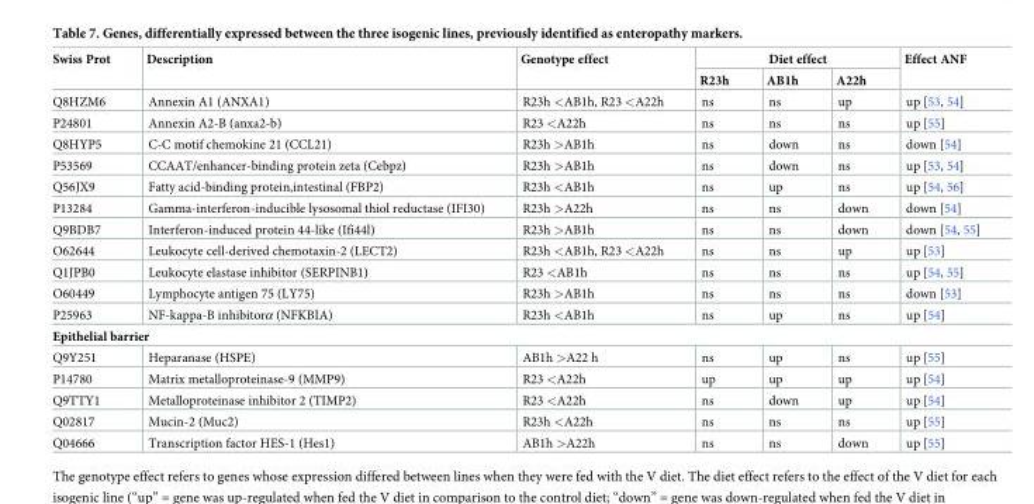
<table><thead><tr><td rowspan="2">Swiss Prot</td><td rowspan="2">Description</td><td rowspan="2">Genotype effect</td><td colspan="3">Diet effect</td><td rowspan="2">Effect ANF</td></tr><tr><td>R23h</td><td>AB1h</td><td>A22h</td></tr></thead><tbody><tr><td>Q8HZM6</td><td>Annexin A1 (ANXA1)</td><td>R23h &lt;AB1h, R23 &lt;A22h</td><td>ns</td><td>ns</td><td>up</td><td>up [53, 54]</td></tr><tr><td>P24801</td><td>Annexin A2-B (anxa2-b)</td><td>R23 &lt;A22h</td><td>ns</td><td>ns</td><td>ns</td><td>up [55]</td></tr><tr><td>Q8HYP5</td><td>C-C motif chemokine 21 (CCL21)</td><td>R23h &gt;AB1h</td><td>ns</td><td>down</td><td>ns</td><td>down [54]</td></tr><tr><td>P53569</td><td>CCAAT/enhancer-binding protein zeta (Cebpz)</td><td>R23h &gt;AB1h</td><td>ns</td><td>down</td><td>ns</td><td>up [53, 54]</td></tr><tr><td>Q56JX9</td><td>Fatty acid-binding protein,intestinal (FBP2)</td><td>R23h &lt;AB1h</td><td>ns</td><td>up</td><td>ns</td><td>up [54, 56]</td></tr><tr><td>P13284</td><td>Gamma-interferon-inducible lysosomal thiol reductase (IFI30)</td><td>R23h &gt;A22h</td><td>ns</td><td>ns</td><td>down</td><td>down [54]</td></tr><tr><td>Q9BDB7</td><td>Interferon-induced protein 44-like (Ifi44l)</td><td>R23h &gt;AB1h</td><td>ns</td><td>ns</td><td>down</td><td>down [54, 55]</td></tr><tr><td>O62644</td><td>Leukocyte cell-derived chemotaxin-2 (LECT2)</td><td>R23h &lt;AB1h, R23 &lt;A22h</td><td>ns</td><td>ns</td><td>up</td><td>up [53]</td></tr><tr><td>Q1JPB0</td><td>Leukocyte elastase inhibitor (SERPINB1)</td><td>R23 &lt;AB1h</td><td>ns</td><td>ns</td><td>ns</td><td>up [54, 55]</td></tr><tr><td>O60449</td><td>Lymphocyte antigen 75 (LY75)</td><td>R23h &gt;AB1h</td><td>ns</td><td>ns</td><td>ns</td><td>down [53]</td></tr><tr><td>P25963</td><td>NF-kappa-B inhibitorα (NFKBIA)</td><td>R23h &lt;AB1h</td><td>ns</td><td>up</td><td>ns</td><td>up [54]</td></tr><tr><td colspan="7">Epithelial barrier</td></tr><tr><td>Q9Y251</td><td>Heparanase (HSPE)</td><td>AB1h &gt;A22 h</td><td>ns</td><td>up</td><td>ns</td><td>up [55]</td></tr><tr><td>P14780</td><td>Matrix metalloproteinase-9 (MMP9)</td><td>R23 &lt;A22h</td><td>up</td><td>up</td><td>up</td><td>up [54]</td></tr><tr><td>Q9TTY1</td><td>Metalloproteinase inhibitor 2 (TIMP2)</td><td>R23 &lt;A22h</td><td>ns</td><td>down</td><td>up</td><td>up [54]</td></tr><tr><td>Q02817</td><td>Mucin-2 (Muc2)</td><td>R23h &lt;A22h</td><td>ns</td><td>ns</td><td>ns</td><td>up [55]</td></tr><tr><td>Q04666</td><td>Transcription factor HES-1 (Hes1)</td><td>AB1h &gt;A22h</td><td>ns</td><td>ns</td><td>down</td><td>up [55]</td></tr></tbody></table>